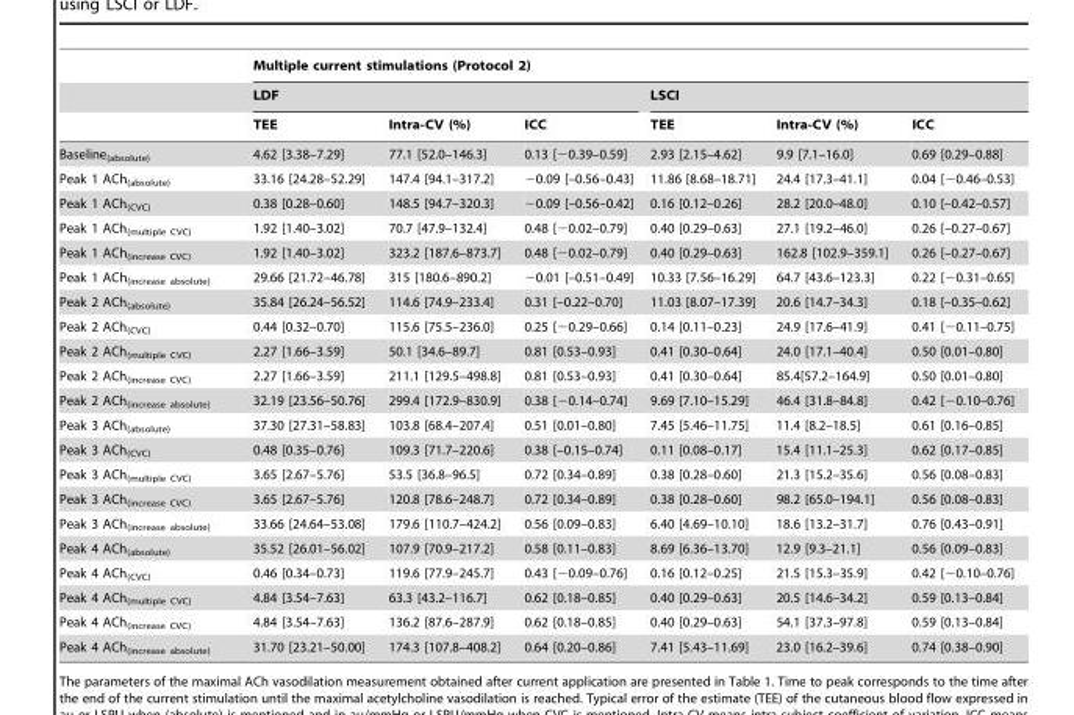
<table><thead><tr><td rowspan="3"></td><td colspan="6">Multiple current stimulations (Protocol 2)</td></tr><tr><td colspan="3">LDF</td><td colspan="3">LSCI</td></tr><tr><td>TEE</td><td>Intra-CV (%)</td><td>ICC</td><td>TEE</td><td>Intra-CV (%)</td><td>ICC</td></tr></thead><tbody><tr><td>Baseline<sub>(absolute)</sub></td><td>4.62 [3.38–7.29]</td><td>77.1 [52.0–146.3]</td><td>0.13 [−0.39–0.59]</td><td>2.93 [2.15–4.62]</td><td>9.9 [7.1–16.0]</td><td>0.69 [0.29–0.88]</td></tr><tr><td>Peak 1 ACh<sub>(absolute)</sub></td><td>33.16 [24.28–52.29]</td><td>147.4 [94.1–317.2]</td><td>−0.09 [–0.56–0.43]</td><td>11.86 [8.68–18.71]</td><td>24.4 [17.3–41.1]</td><td>0.04 [−0.46–0.53]</td></tr><tr><td>Peak 1 ACh<sub>(CVC)</sub></td><td>0.38 [0.28–0.60]</td><td>148.5 [94.7–320.3]</td><td>−0.09 [–0.56–0.42]</td><td>0.16 [0.12–0.26]</td><td>28.2 [20.0–48.0]</td><td>0.10 [–0.42–0.57]</td></tr><tr><td>Peak 1 ACh<sub>(multiple CVC)</sub></td><td>1.92 [1.40–3.02]</td><td>70.7 [47.9–132.4]</td><td>0.48 [−0.02–0.79]</td><td>0.40 [0.29–0.63]</td><td>27.1 [19.2–46.0]</td><td>0.26 [–0.27–0.67]</td></tr><tr><td>Peak 1 ACh<sub>(increase CVC)</sub></td><td>1.92 [1.40–3.02]</td><td>323.2 [187.6–873.7]</td><td>0.48 [−0.02–0.79]</td><td>0.40 [0.29–0.63]</td><td>162.8 [102.9–359.1]</td><td>0.26 [–0.27–0.67]</td></tr><tr><td>Peak 1 ACh<sub>(increase absolute)</sub></td><td>29.66 [21.72–46.78]</td><td>315 [180.6–890.2]</td><td>−0.01 [–0.51–0.49]</td><td>10.33 [7.56–16.29]</td><td>64.7 [43.6–123.3]</td><td>0.22 [−0.31–0.65]</td></tr><tr><td>Peak 2 ACh<sub>(absolute)</sub></td><td>35.84 [26.24–56.52]</td><td>114.6 [74.9–233.4]</td><td>0.31 [–0.22–0.70]</td><td>11.03 [8.07–17.39]</td><td>20.6 [14.7–34.3]</td><td>0.18 [–0.35–0.62]</td></tr><tr><td>Peak 2 ACh<sub>(CVC)</sub></td><td>0.44 [0.32–0.70]</td><td>115.6 [75.5–236.0]</td><td>0.25 [−0.29–0.66]</td><td>0.14 [0.11–0.23]</td><td>24.9 [17.6–41.9]</td><td>0.41 [−0.11–0.75]</td></tr><tr><td>Peak 2 ACh<sub>(multiple CVC)</sub></td><td>2.27 [1.66–3.59]</td><td>50.1 [34.6–89.7]</td><td>0.81 [0.53–0.93]</td><td>0.41 [0.30–0.64]</td><td>24.0 [17.1–40.4]</td><td>0.50 [0.01–0.80]</td></tr><tr><td>Peak 2 ACh<sub>(increase CVC)</sub></td><td>2.27 [1.66–3.59]</td><td>211.1 [129.5–498.8]</td><td>0.81 [0.53–0.93]</td><td>0.41 [0.30–0.64]</td><td>85.4[57.2–164.9]</td><td>0.50 [0.01–0.80]</td></tr><tr><td>Peak 2 ACh<sub>(increase absolute)</sub></td><td>32.19 [23.56–50.76]</td><td>299.4 [172.9–830.9]</td><td>0.38 [−0.14–0.74]</td><td>9.69 [7.10–15.29]</td><td>46.4 [31.8–84.8]</td><td>0.42 [−0.10–0.76]</td></tr><tr><td>Peak 3 ACh<sub>(absolute)</sub></td><td>37.30 [27.31–58.83]</td><td>103.8 [68.4–207.4]</td><td>0.51 [0.01–0.80]</td><td>7.45 [5.46–11.75]</td><td>11.4 [8.2–18.5]</td><td>0.61 [0.16–0.85]</td></tr><tr><td>Peak 3 ACh<sub>(CVC)</sub></td><td>0.48 [0.35–0.76]</td><td>109.3 [71.7–220.6]</td><td>0.38 [–0.15–0.74]</td><td>0.11 [0.08–0.17]</td><td>15.4 [11.1–25.3]</td><td>0.62 [0.17–0.85]</td></tr><tr><td>Peak 3 ACh<sub>(multiple CVC)</sub></td><td>3.65 [2.67–5.76]</td><td>53.5 [36.8–96.5]</td><td>0.72 [0.34–0.89]</td><td>0.38 [0.28–0.60]</td><td>21.3 [15.2–35.6]</td><td>0.56 [0.08–0.83]</td></tr><tr><td>Peak 3 ACh<sub>(increase CVC)</sub></td><td>3.65 [2.67–5.76]</td><td>120.8 [78.6–248.7]</td><td>0.72 [0.34–0.89]</td><td>0.38 [0.28–0.60]</td><td>98.2 [65.0–194.1]</td><td>0.56 [0.08–0.83]</td></tr><tr><td>Peak 3 ACh<sub>(increase absolute)</sub></td><td>33.66 [24.64–53.08]</td><td>179.6 [110.7–424.2]</td><td>0.56 [0.09–0.83]</td><td>6.40 [4.69–10.10]</td><td>18.6 [13.2–31.7]</td><td>0.76 [0.43–0.91]</td></tr><tr><td>Peak 4 ACh<sub>(absolute)</sub></td><td>35.52 [26.01–56.02]</td><td>107.9 [70.9–217.2]</td><td>0.58 [0.11–0.83]</td><td>8.69 [6.36–13.70]</td><td>12.9 [9.3–21.1]</td><td>0.56 [0.09–0.83]</td></tr><tr><td>Peak 4 ACh<sub>(CVC)</sub></td><td>0.46 [0.34–0.73]</td><td>119.6 [77.9–245.7]</td><td>0.43 [−0.09–0.76]</td><td>0.16 [0.12–0.25]</td><td>21.5 [15.3–35.9]</td><td>0.42 [−0.10–0.76]</td></tr><tr><td>Peak 4 ACh<sub>(multiple CVC)</sub></td><td>4.84 [3.54–7.63]</td><td>63.3 [43.2–116.7]</td><td>0.62 [0.18–0.85]</td><td>0.40 [0.29–0.63]</td><td>20.5 [14.6–34.2]</td><td>0.59 [0.13–0.84]</td></tr><tr><td>Peak 4 ACh<sub>(increase CVC)</sub></td><td>4.84 [3.54–7.63]</td><td>136.2 [87.6–287.9]</td><td>0.62 [0.18–0.85]</td><td>0.40 [0.29–0.63]</td><td>54.1 [37.3–97.8]</td><td>0.59 [0.13–0.84]</td></tr><tr><td>Peak 4 ACh<sub>(increase absolute)</sub></td><td>31.70 [23.21–50.00]</td><td>174.3 [107.8–408.2]</td><td>0.64 [0.20–0.86]</td><td>7.41 [5.43–11.69]</td><td>23.0 [16.2–39.6]</td><td>0.74 [0.38–0.90]</td></tr></tbody></table>